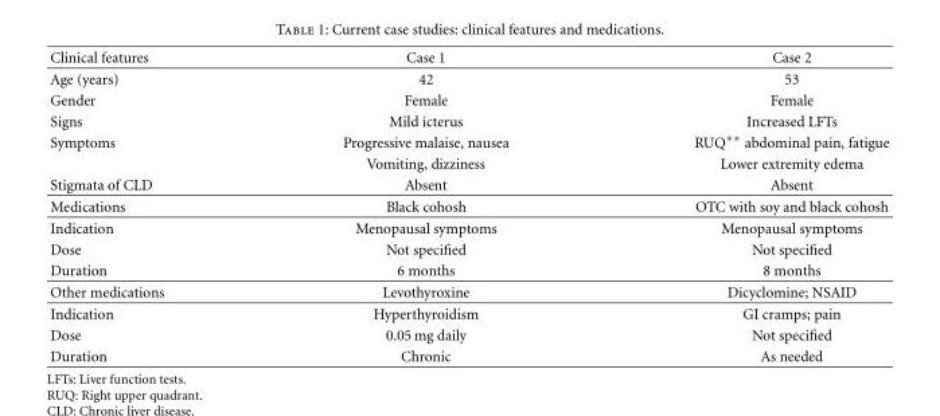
<table><thead><tr><td>Clinical features</td><td>Case 1</td><td>Case 2</td></tr></thead><tbody><tr><td>Age (years)</td><td>42</td><td>53</td></tr><tr><td>Gender</td><td>Female</td><td>Female</td></tr><tr><td>Signs</td><td>Mild icterus</td><td>Increased LFTs</td></tr><tr><td rowspan="2">Symptoms</td><td>Progressive malaise, nausea</td><td>RUQ∗∗ abdominal pain, fatigue</td></tr><tr><td>Vomiting, dizziness</td><td>Lower extremity edema</td></tr><tr><td>Stigmata of CLD</td><td>Absent</td><td>Absent</td></tr><tr><td>Medications</td><td>Black cohosh</td><td>OTC with soy and black cohosh</td></tr><tr><td>Indication</td><td>Menopausal symptoms</td><td>Menopausal symptoms</td></tr><tr><td>Dose</td><td>Not specified</td><td>Not specified</td></tr><tr><td>Duration</td><td>6 months</td><td>8 months</td></tr><tr><td>Other medications</td><td>Levothyroxine</td><td>Dicyclomine; NSAID</td></tr><tr><td>Indication</td><td>Hyperthyroidism</td><td>GI cramps; pain</td></tr><tr><td>Dose</td><td>0.05 mg daily</td><td>Not specified</td></tr><tr><td>Duration</td><td>Chronic</td><td>As needed</td></tr></tbody></table>